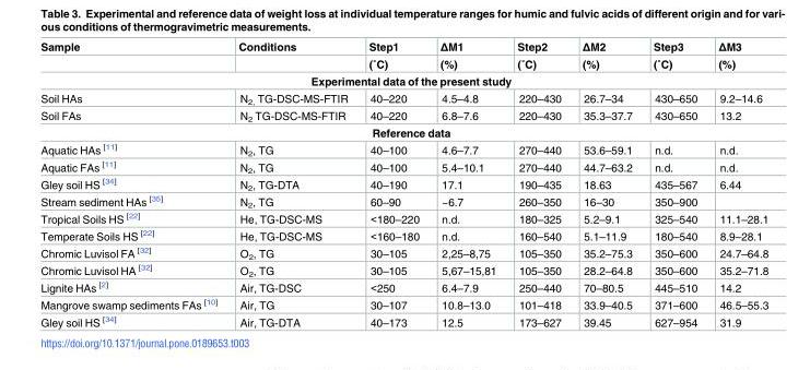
<table><thead><tr><td rowspan="2">Sample</td><td rowspan="2">Conditions</td><td rowspan="2">Step1 (˚C)</td><td rowspan="2">ΔM1 (%)</td><td rowspan="2">Step2 (˚C)</td><td rowspan="2">ΔM2 (%)</td><td rowspan="2">Step3 (˚C)</td><td rowspan="2">ΔM3 (%)</td></tr><tr></tr></thead><tbody><tr><td colspan="8">Experimental data of the present study</td></tr><tr><td>Soil HAs</td><td>N<sub>2,</sub> TG-DSC-MS-FTIR</td><td>40–220</td><td>4.5–4.8</td><td>220–430</td><td>26.7–34</td><td>430–650</td><td>9.2–14.6</td></tr><tr><td>Soil FAs</td><td>N<sub>2</sub> TG-DSC-MS-FTIR</td><td>40–220</td><td>6.8–7.6</td><td>220–430</td><td>35.3–37.7</td><td>430–650</td><td>13.2</td></tr><tr><td colspan="8">Reference data</td></tr><tr><td>Aquatic HAs <sup>[11]</sup></td><td>N<sub>2</sub>, TG</td><td>40–100</td><td>4.6–7.7</td><td>270–440</td><td>53.6–59.1</td><td>n.d.</td><td>n.d.</td></tr><tr><td>Aquatic FAs <sup>[11]</sup></td><td>N<sub>2</sub>, TG</td><td>40–100</td><td>5.4–10.1</td><td>270–440</td><td>44.7–63.2</td><td>n.d.</td><td>n.d.</td></tr><tr><td>Gley soil HS <sup>[34]</sup></td><td>N<sub>2</sub>, TG-DTA</td><td>40–190</td><td>17.1</td><td>190–435</td><td>18.63</td><td>435–567</td><td>6.44</td></tr><tr><td>Stream sediment HAs <sup>[35]</sup></td><td>N<sub>2</sub>, TG</td><td>60–90</td><td>~6.7</td><td>260–350</td><td>16–30</td><td>350–900</td><td></td></tr><tr><td>Tropical Soils HS <sup>[22]</sup></td><td>He, TG-DSC-MS</td><td>&lt;180–220</td><td>n.d.</td><td>180–325</td><td>5.2–9.1</td><td>325–540</td><td>11.1–28.1</td></tr><tr><td>Temperate Soils HS <sup>[22]</sup></td><td>He, TG-DSC-MS</td><td>&lt;160–180</td><td>n.d.</td><td>160–540</td><td>5.1–11.9</td><td>180–540</td><td>8.9–28.1</td></tr><tr><td>Chromic Luvisol FA <sup>[32]</sup></td><td>O<sub>2</sub>, TG</td><td>30–105</td><td>2,25–8,75</td><td>105–350</td><td>35.2–75.3</td><td>350–600</td><td>24.7–64.8</td></tr><tr><td>Chromic Luvisol HA <sup>[32]</sup></td><td>O<sub>2</sub>, TG</td><td>30–105</td><td>5,67–15,81</td><td>105–350</td><td>28.2–64.8</td><td>350–600</td><td>35.2–71.8</td></tr><tr><td>Lignite HAs <sup>[2]</sup></td><td>Air, TG-DSC</td><td>&lt;250</td><td>6.4–7.9</td><td>250–440</td><td>70–80.5</td><td>445–510</td><td>14.2</td></tr><tr><td>Mangrove swamp sediments FAs <sup>[10]</sup></td><td>Air, TG</td><td>30–107</td><td>10.8–13.0</td><td>101–418</td><td>33.9–40.5</td><td>371–600</td><td>46.5–55.3</td></tr><tr><td>Gley soil HS <sup>[34]</sup></td><td>Air, TG-DTA</td><td>40–173</td><td>12.5</td><td>173–627</td><td>39.45</td><td>627–954</td><td>31.9</td></tr></tbody></table>